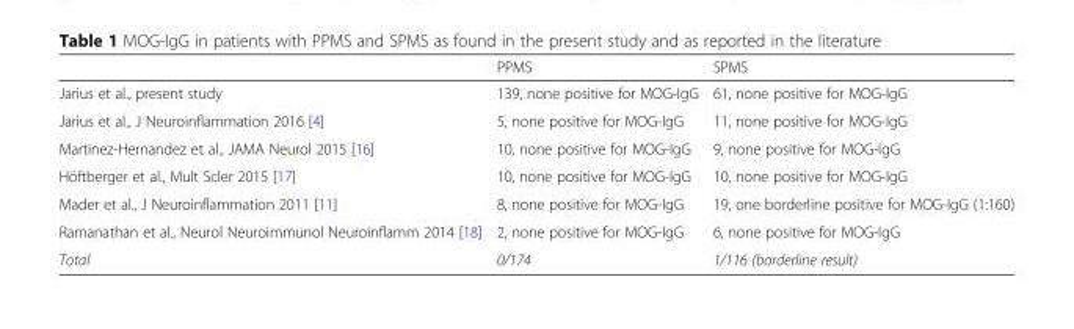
<table><thead><tr><td></td><td>PPMS</td><td>SPMS</td></tr></thead><tbody><tr><td>Jarius et al., present study</td><td>139, none positive for MOG-IgG</td><td>61, none positive for MOG-IgG</td></tr><tr><td>Jarius et al., J Neuroinflammation 2016 [4]</td><td>5, none positive for MOG-IgG</td><td>11, none positive for MOG-IgG</td></tr><tr><td>Martinez-Hernandez et al., JAMA Neurol 2015 [16]</td><td>10, none positive for MOG-IgG</td><td>9, none positive for MOG-IgG</td></tr><tr><td>Höftberger et al., Mult Scler 2015 [17]</td><td>10, none positive for MOG-IgG</td><td>10, none positive for MOG-IgG</td></tr><tr><td>Mader et al., J Neuroinflammation 2011 [11]</td><td>8, none positive for MOG-IgG</td><td>19, one borderline positive for MOG-IgG (1:160)</td></tr><tr><td>Ramanathan et al., Neurol Neuroimmunol Neuroinflamm 2014 [18]</td><td>2, none positive for MOG-IgG</td><td>6, none positive for MOG-IgG</td></tr><tr><td>Total</td><td>0/174</td><td>1/116 (borderline result)</td></tr></tbody></table>